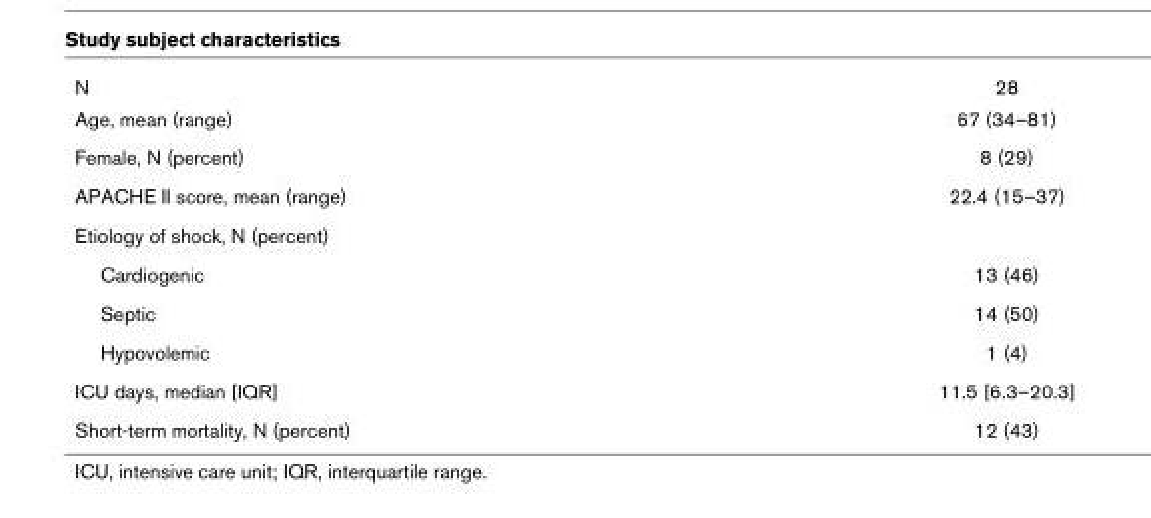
<table><tbody><tr><td>N</td><td>28</td></tr><tr><td>Age, mean (range)</td><td>67 (34–81)</td></tr><tr><td>Female, N (percent)</td><td>8 (29)</td></tr><tr><td>APACHE II score, mean (range)</td><td>22.4 (15–37)</td></tr><tr><td colspan="2">Etiology of shock, N (percent)</td></tr><tr><td>Cardiogenic</td><td>13 (46)</td></tr><tr><td>Septic</td><td>14 (50)</td></tr><tr><td>Hypovolemic</td><td>1 (4)</td></tr><tr><td>ICU days, median [IQR]</td><td>11.5 [6.3–20.3]</td></tr><tr><td>Short-term mortality, N (percent)</td><td>12 (43)</td></tr></tbody></table>